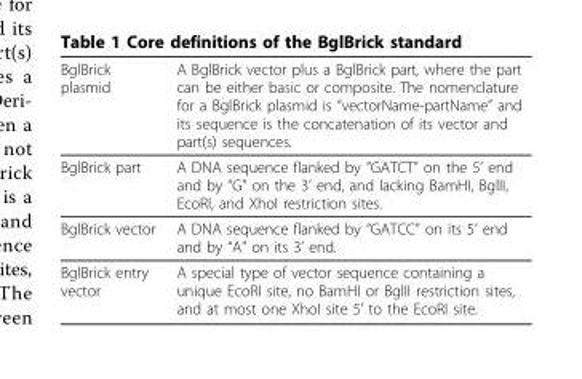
<table><thead><tr><td>BglBrick plasmid</td><td>A BglBrick vector plus a BglBrick part, where the part can be either basic or composite. The nomenclature for a BglBrick plasmid is “vectorName-partName” and its sequence is the concatenation of its vector and part(s) sequences.</td></tr></thead><tbody><tr><td>BglBrick part</td><td>A DNA sequence flanked by “GATCT” on the 5’ end and by “G” on the 3’ end, and lacking BamHI, BglII, EcoRI, and XhoI restriction sites.</td></tr><tr><td>BglBrick vector</td><td>A DNA sequence flanked by “GATCC” on its 5’ end and by “A” on its 3’ end.</td></tr><tr><td>BglBrick entry vector</td><td>A special type of vector sequence containing a unique EcoRI site, no BamHI or BglII restriction sites, and at most one XhoI site 5’ to the EcoRI site.</td></tr></tbody></table>